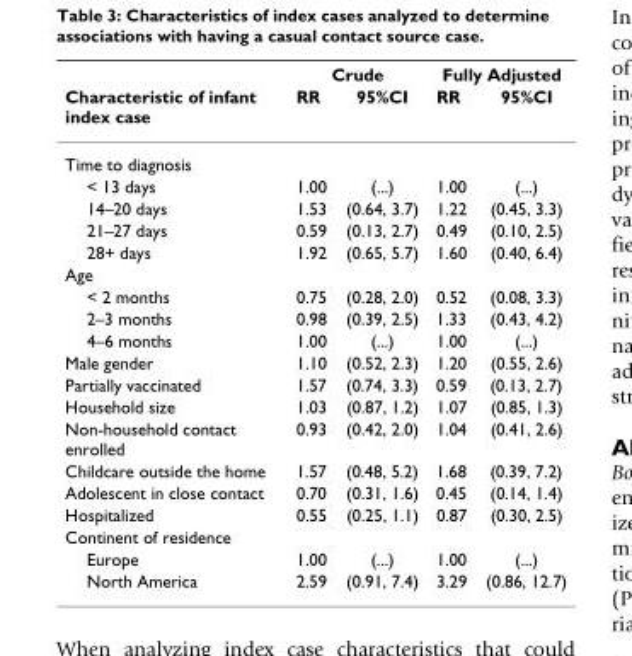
<table><thead><tr><td rowspan="2">Characteristic of infant index case</td><td colspan="2">Crude</td><td colspan="2">Fully Adjusted</td></tr><tr><td>RR</td><td>95%CI</td><td>RR</td><td>95%CI</td></tr></thead><tbody><tr><td colspan="5">Time to diagnosis</td></tr><tr><td>&lt; 13 days</td><td>1.00</td><td>(...)</td><td>1.00</td><td>(...)</td></tr><tr><td>14–20 days</td><td>1.53</td><td>(0.64, 3.7)</td><td>1.22</td><td>(0.45, 3.3)</td></tr><tr><td>21–27 days</td><td>0.59</td><td>(0.13, 2.7)</td><td>0.49</td><td>(0.10, 2.5)</td></tr><tr><td>28+ days</td><td>1.92</td><td>(0.65, 5.7)</td><td>1.60</td><td>(0.40, 6.4)</td></tr><tr><td colspan="5">Age</td></tr><tr><td>&lt; 2 months</td><td>0.75</td><td>(0.28, 2.0)</td><td>0.52</td><td>(0.08, 3.3)</td></tr><tr><td>2–3 months</td><td>0.98</td><td>(0.39, 2.5)</td><td>1.33</td><td>(0.43, 4.2)</td></tr><tr><td>4–6 months</td><td>1.00</td><td>(...)</td><td>1.00</td><td>(...)</td></tr><tr><td>Male gender</td><td>1.10</td><td>(0.52, 2.3)</td><td>1.20</td><td>(0.55, 2.6)</td></tr><tr><td>Partially vaccinated</td><td>1.57</td><td>(0.74, 3.3)</td><td>0.59</td><td>(0.13, 2.7)</td></tr><tr><td>Household size</td><td>1.03</td><td>(0.87, 1.2)</td><td>1.07</td><td>(0.85, 1.3)</td></tr><tr><td>Non-household contact enrolled</td><td>0.93</td><td>(0.42, 2.0)</td><td>1.04</td><td>(0.41, 2.6)</td></tr><tr><td>Childcare outside the home</td><td>1.57</td><td>(0.48, 5.2)</td><td>1.68</td><td>(0.39, 7.2)</td></tr><tr><td>Adolescent in close contact</td><td>0.70</td><td>(0.31, 1.6)</td><td>0.45</td><td>(0.14, 1.4)</td></tr><tr><td>Hospitalized</td><td>0.55</td><td>(0.25, 1.1)</td><td>0.87</td><td>(0.30, 2.5)</td></tr><tr><td colspan="5">Continent of residence</td></tr><tr><td>Europe</td><td>1.00</td><td>(...)</td><td>1.00</td><td>(...)</td></tr><tr><td>North America</td><td>2.59</td><td>(0.91, 7.4)</td><td>3.29</td><td>(0.86, 12.7)</td></tr></tbody></table>